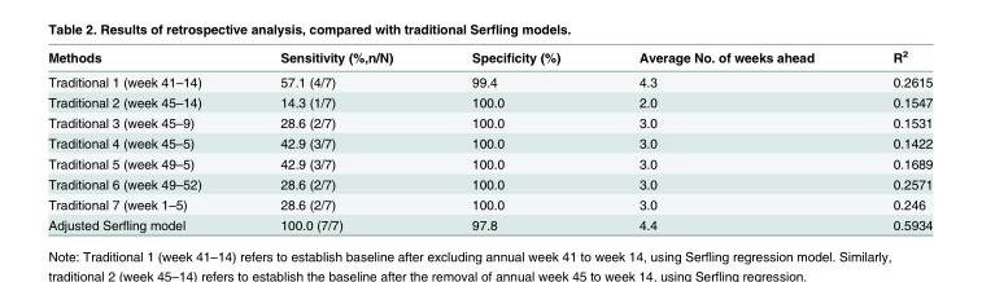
<table><thead><tr><td>Methods</td><td>Sensitivity (%,n/N)</td><td>Specificity (%)</td><td>Average No. of weeks ahead</td><td>R<sup>2</sup></td></tr></thead><tbody><tr><td>Traditional 1 (week 41–14)</td><td>57.1 (4/7)</td><td>99.4</td><td>4.3</td><td>0.2615</td></tr><tr><td>Traditional 2 (week 45–14)</td><td>14.3 (1/7)</td><td>100.0</td><td>2.0</td><td>0.1547</td></tr><tr><td>Traditional 3 (week 45–9)</td><td>28.6 (2/7)</td><td>100.0</td><td>3.0</td><td>0.1531</td></tr><tr><td>Traditional 4 (week 45–5)</td><td>42.9 (3/7)</td><td>100.0</td><td>3.0</td><td>0.1422</td></tr><tr><td>Traditional 5 (week 49–5)</td><td>42.9 (3/7)</td><td>100.0</td><td>3.0</td><td>0.1689</td></tr><tr><td>Traditional 6 (week 49–52)</td><td>28.6 (2/7)</td><td>100.0</td><td>3.0</td><td>0.2571</td></tr><tr><td>Traditional 7 (week 1–5)</td><td>28.6 (2/7)</td><td>100.0</td><td>3.0</td><td>0.246</td></tr><tr><td>Adjusted Serfling model</td><td>100.0 (7/7)</td><td>97.8</td><td>4.4</td><td>0.5934</td></tr></tbody></table>